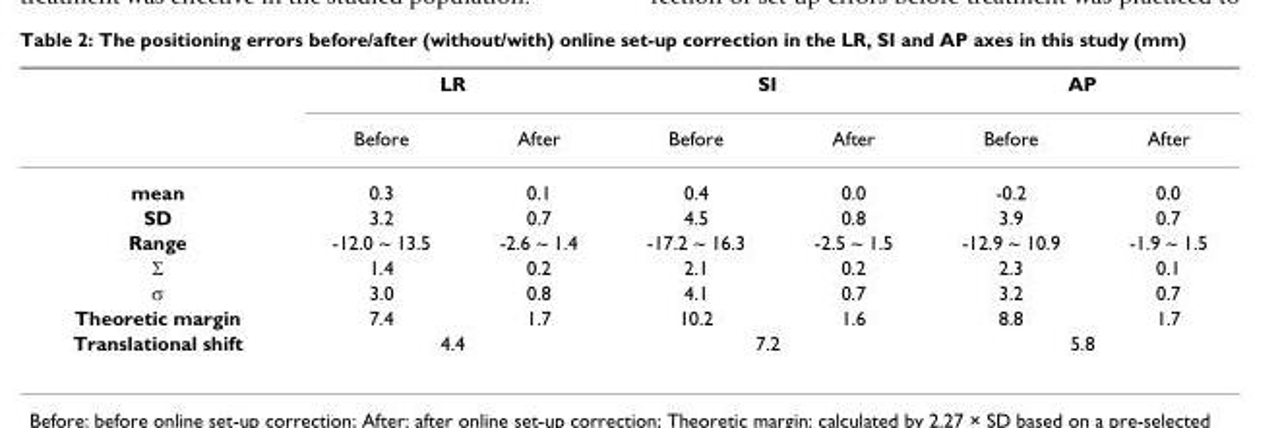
<table><thead><tr><td rowspan="2"></td><td colspan="2">LR</td><td colspan="2">SI</td><td colspan="2">AP</td></tr><tr><td>Before</td><td>After</td><td>Before</td><td>After</td><td>Before</td><td>After</td></tr></thead><tbody><tr><td>mean</td><td>0.3</td><td>0.1</td><td>0.4</td><td>0.0</td><td>-0.2</td><td>0.0</td></tr><tr><td>SD</td><td>3.2</td><td>0.7</td><td>4.5</td><td>0.8</td><td>3.9</td><td>0.7</td></tr><tr><td>Range</td><td>-12.0 ~ 13.5</td><td>-2.6 ~ 1.4</td><td>-17.2 ~ 16.3</td><td>-2.5 ~ 1.5</td><td>-12.9 ~ 10.9</td><td>-1.9 ~ 1.5</td></tr><tr><td>Σ</td><td>1.4</td><td>0.2</td><td>2.1</td><td>0.2</td><td>2.3</td><td>0.1</td></tr><tr><td>σ</td><td>3.0</td><td>0.8</td><td>4.1</td><td>0.7</td><td>3.2</td><td>0.7</td></tr><tr><td>Theoretic margin</td><td>7.4</td><td>1.7</td><td>10.2</td><td>1.6</td><td>8.8</td><td>1.7</td></tr><tr><td>Translational shift</td><td colspan="2">4.4</td><td colspan="2">7.2</td><td colspan="2">5.8</td></tr></tbody></table>